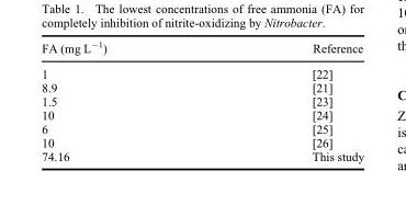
<table><thead><tr><td>FA (mg L<sup>−1</sup>)</td><td>Reference</td></tr></thead><tbody><tr><td>1</td><td>[22]</td></tr><tr><td>8.9</td><td>[21]</td></tr><tr><td>1.5</td><td>[23]</td></tr><tr><td>10</td><td>[24]</td></tr><tr><td>6</td><td>[25]</td></tr><tr><td>10</td><td>[26]</td></tr><tr><td>74.16</td><td>This study</td></tr></tbody></table>